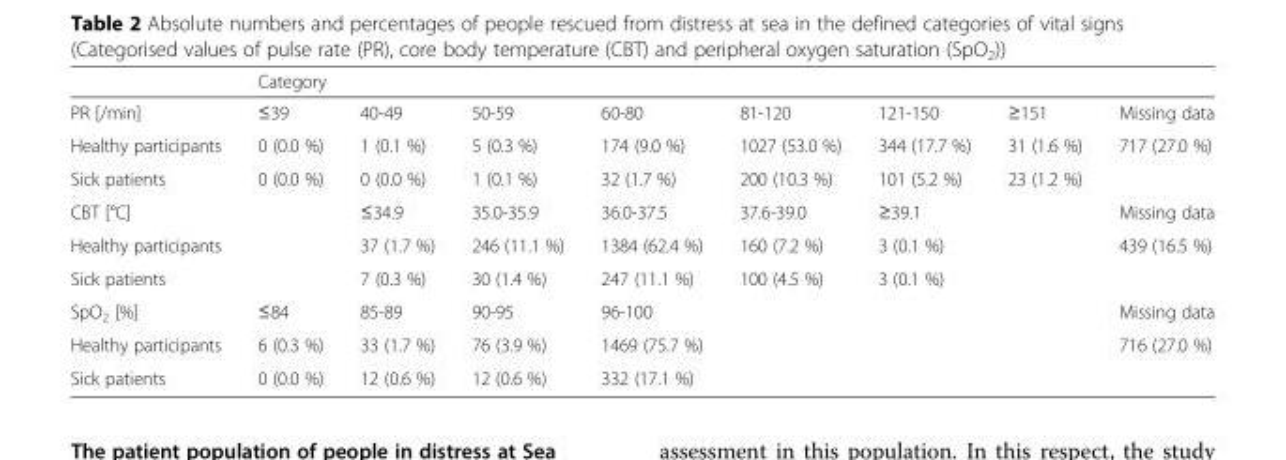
<table><thead><tr><td rowspan="2">PR [/min]</td><td colspan="7">Category</td><td rowspan="2">Missing data</td></tr><tr><td>≤39</td><td>40-49</td><td>50-59</td><td>60-80</td><td>81-120</td><td>121-150</td><td>≥151</td></tr></thead><tbody><tr><td>Healthy participants</td><td>0 (0.0 %)</td><td>1 (0.1 %)</td><td>5 (0.3 %)</td><td>174 (9.0 %)</td><td>1027 (53.0 %)</td><td>344 (17.7 %)</td><td>31 (1.6 %)</td><td rowspan="2">717 (27.0 %)</td></tr><tr><td>Sick patients</td><td>0 (0.0 %)</td><td>0 (0.0 %)</td><td>1 (0.1 %)</td><td>32 (1.7 %)</td><td>200 (10.3 %)</td><td>101 (5.2 %)</td><td>23 (1.2 %)</td></tr><tr><td>CBT [°C]</td><td></td><td>≤34.9</td><td>35.0-35.9</td><td>36.0-37.5</td><td>37.6-39.0</td><td>≥39.1</td><td></td><td>Missing data</td></tr><tr><td>Healthy participants</td><td></td><td>37 (1.7 %)</td><td>246 (11.1 %)</td><td>1384 (62.4 %)</td><td>160 (7.2 %)</td><td>3 (0.1 %)</td><td></td><td rowspan="2">439 (16.5 %)</td></tr><tr><td>Sick patients</td><td></td><td>7 (0.3 %)</td><td>30 (1.4 %)</td><td>247 (11.1 %)</td><td>100 (4.5 %)</td><td>3 (0.1 %)</td><td></td></tr><tr><td>SpO<sub>2</sub> [%]</td><td>≤84</td><td>85-89</td><td>90-95</td><td>96-100</td><td></td><td></td><td></td><td>Missing data</td></tr><tr><td>Healthy participants</td><td>6 (0.3 %)</td><td>33 (1.7 %)</td><td>76 (3.9 %)</td><td>1469 (75.7 %)</td><td></td><td></td><td></td><td rowspan="2">716 (27.0 %)</td></tr><tr><td>Sick patients</td><td>0 (0.0 %)</td><td>12 (0.6 %)</td><td>12 (0.6 %)</td><td>332 (17.1 %)</td><td></td><td></td><td></td></tr></tbody></table>